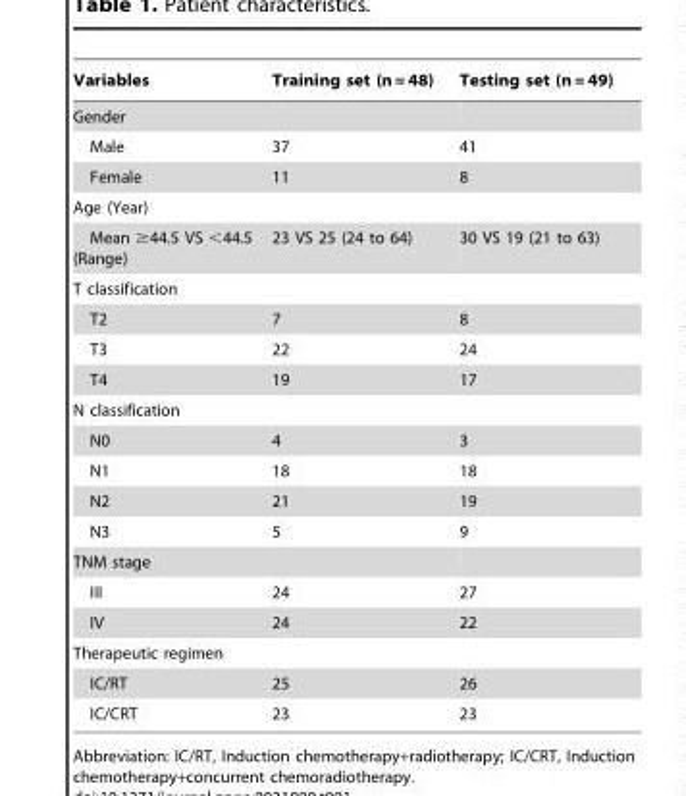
<table><thead><tr><td>Variables</td><td>Training set (n = 48)</td><td>Testing set (n = 49)</td></tr></thead><tbody><tr><td colspan="3">Gender</td></tr><tr><td>Male</td><td>37</td><td>41</td></tr><tr><td>Female</td><td>11</td><td>8</td></tr><tr><td colspan="3">Age (Year)</td></tr><tr><td>Mean ≥44.5 VS &lt;44.5 (Range)</td><td>23 VS 25 (24 to 64)</td><td>30 VS 19 (21 to 63)</td></tr><tr><td colspan="3">T classification</td></tr><tr><td>T2</td><td>7</td><td>8</td></tr><tr><td>T3</td><td>22</td><td>24</td></tr><tr><td>T4</td><td>19</td><td>17</td></tr><tr><td colspan="3">N classification</td></tr><tr><td>N0</td><td>4</td><td>3</td></tr><tr><td>N1</td><td>18</td><td>18</td></tr><tr><td>N2</td><td>21</td><td>19</td></tr><tr><td>N3</td><td>5</td><td>9</td></tr><tr><td colspan="3">TNM stage</td></tr><tr><td>III</td><td>24</td><td>27</td></tr><tr><td>IV</td><td>24</td><td>22</td></tr><tr><td colspan="3">Therapeutic regimen</td></tr><tr><td>IC/RT</td><td>25</td><td>26</td></tr><tr><td>IC/CRT</td><td>23</td><td>23</td></tr></tbody></table>